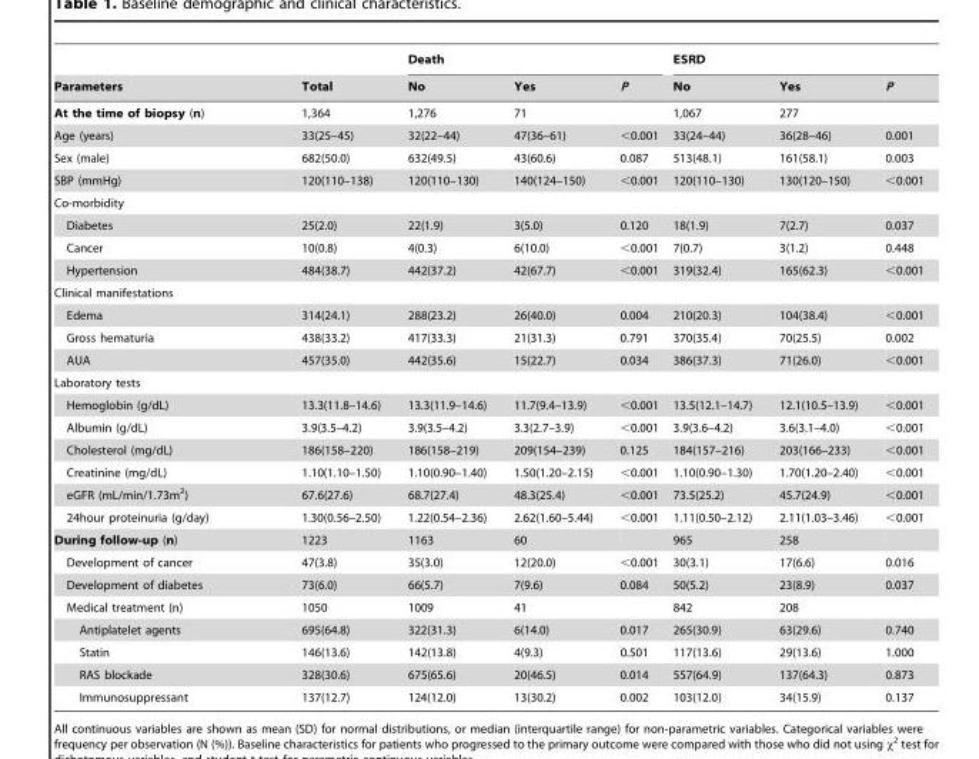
<table><thead><tr><td rowspan="2">Parameters</td><td rowspan="2">Total</td><td colspan="3">Death</td><td colspan="3">ESRD</td></tr><tr><td>No</td><td>Yes</td><td>P</td><td>No</td><td>Yes</td><td>P</td></tr></thead><tbody><tr><td>At the time of biopsy (n)</td><td>1,364</td><td>1,276</td><td>71</td><td></td><td>1,067</td><td>277</td><td></td></tr><tr><td>Age (years)</td><td>33(25–45)</td><td>32(22–44)</td><td>47(36–61)</td><td>&lt;0.001</td><td>33(24–44)</td><td>36(28–46)</td><td>0.001</td></tr><tr><td>Sex (male)</td><td>682(50.0)</td><td>632(49.5)</td><td>43(60.6)</td><td>0.087</td><td>513(48.1)</td><td>161(58.1)</td><td>0.003</td></tr><tr><td>SBP (mmHg)</td><td>120(110–138)</td><td>120(110–130)</td><td>140(124–150)</td><td>&lt;0.001</td><td>120(110–130)</td><td>130(120–150)</td><td>&lt;0.001</td></tr><tr><td colspan="8">Co-morbidity</td></tr><tr><td>Diabetes</td><td>25(2.0)</td><td>22(1.9)</td><td>3(5.0)</td><td>0.120</td><td>18(1.9)</td><td>7(2.7)</td><td>0.037</td></tr><tr><td>Cancer</td><td>10(0.8)</td><td>4(0.3)</td><td>6(10.0)</td><td>&lt;0.001</td><td>7(0.7)</td><td>3(1.2)</td><td>0.448</td></tr><tr><td>Hypertension</td><td>484(38.7)</td><td>442(37.2)</td><td>42(67.7)</td><td>&lt;0.001</td><td>319(32.4)</td><td>165(62.3)</td><td>&lt;0.001</td></tr><tr><td colspan="8">Clinical manifestations</td></tr><tr><td>Edema</td><td>314(24.1)</td><td>288(23.2)</td><td>26(40.0)</td><td>0.004</td><td>210(20.3)</td><td>104(38.4)</td><td>&lt;0.001</td></tr><tr><td>Gross hematuria</td><td>438(33.2)</td><td>417(33.3)</td><td>21(31.3)</td><td>0.791</td><td>370(35.4)</td><td>70(25.5)</td><td>0.002</td></tr><tr><td>AUA</td><td>457(35.0)</td><td>442(35.6)</td><td>15(22.7)</td><td>0.034</td><td>386(37.3)</td><td>71(26.0)</td><td>&lt;0.001</td></tr><tr><td colspan="8">Laboratory tests</td></tr><tr><td>Hemoglobin (g/dL)</td><td>13.3(11.8–14.6)</td><td>13.3(11.9–14.6)</td><td>11.7(9.4–13.9)</td><td>&lt;0.001</td><td>13.5(12.1–14.7)</td><td>12.1(10.5–13.9)</td><td>&lt;0.001</td></tr><tr><td>Albumin (g/dL)</td><td>3.9(3.5–4.2)</td><td>3.9(3.5–4.2)</td><td>3.3(2.7–3.9)</td><td>&lt;0.001</td><td>3.9(3.6–4.2)</td><td>3.6(3.1–4.0)</td><td>&lt;0.001</td></tr><tr><td>Cholesterol (mg/dL)</td><td>186(158–220)</td><td>186(158–219)</td><td>209(154–239)</td><td>0.125</td><td>184(157–216)</td><td>203(166–233)</td><td>&lt;0.001</td></tr><tr><td>Creatinine (mg/dL)</td><td>1.10(1.10–1.50)</td><td>1.10(0.90–1.40)</td><td>1.50(1.20–2.15)</td><td>&lt;0.001</td><td>1.10(0.90–1.30)</td><td>1.70(1.20–2.40)</td><td>&lt;0.001</td></tr><tr><td>eGFR (mL/min/1.73m<sup>2</sup>)</td><td>67.6(27.6)</td><td>68.7(27.4)</td><td>48.3(25.4)</td><td>&lt;0.001</td><td>73.5(25.2)</td><td>45.7(24.9)</td><td>&lt;0.001</td></tr><tr><td>24hour proteinuria (g/day)</td><td>1.30(0.56–2.50)</td><td>1.22(0.54–2.36)</td><td>2.62(1.60–5.44)</td><td>&lt;0.001</td><td>1.11(0.50–2.12)</td><td>2.11(1.03–3.46)</td><td>&lt;0.001</td></tr><tr><td>During follow-up (n)</td><td>1223</td><td>1163</td><td>60</td><td></td><td>965</td><td>258</td><td></td></tr><tr><td>Development of cancer</td><td>47(3.8)</td><td>35(3.0)</td><td>12(20.0)</td><td>&lt;0.001</td><td>30(3.1)</td><td>17(6.6)</td><td>0.016</td></tr><tr><td>Development of diabetes</td><td>73(6.0)</td><td>66(5.7)</td><td>7(9.6)</td><td>0.084</td><td>50(5.2)</td><td>23(8.9)</td><td>0.037</td></tr><tr><td>Medical treatment (n)</td><td>1050</td><td>1009</td><td>41</td><td></td><td>842</td><td>208</td><td></td></tr><tr><td>Antiplatelet agents</td><td>695(64.8)</td><td>322(31.3)</td><td>6(14.0)</td><td>0.017</td><td>265(30.9)</td><td>63(29.6)</td><td>0.740</td></tr><tr><td>Statin</td><td>146(13.6)</td><td>142(13.8)</td><td>4(9.3)</td><td>0.501</td><td>117(13.6)</td><td>29(13.6)</td><td>1.000</td></tr><tr><td>RAS blockade</td><td>328(30.6)</td><td>675(65.6)</td><td>20(46.5)</td><td>0.014</td><td>557(64.9)</td><td>137(64.3)</td><td>0.873</td></tr><tr><td>Immunosuppressant</td><td>137(12.7)</td><td>124(12.0)</td><td>13(30.2)</td><td>0.002</td><td>103(12.0)</td><td>34(15.9)</td><td>0.137</td></tr></tbody></table>